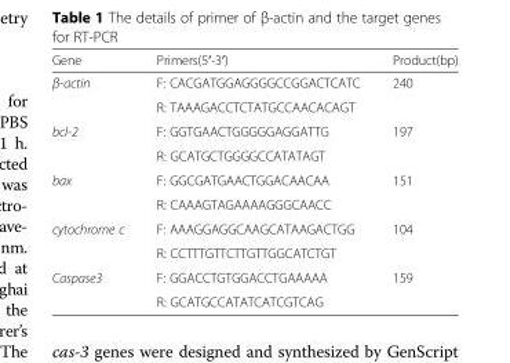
<table><thead><tr><td>Gene</td><td>Primers(5′-3′)</td><td>Product(bp)</td></tr></thead><tbody><tr><td rowspan="2">β-actin</td><td>F: CACGATGGAGGGGCCGGACTCATC</td><td rowspan="2">240</td></tr><tr><td>R: TAAAGACCTCTATGCCAACACAGT</td></tr><tr><td rowspan="2">bcl-2</td><td>F: GGTGAACTGGGGGAGGATTG</td><td rowspan="2">197</td></tr><tr><td>R: GCATGCTGGGGCCATATAGT</td></tr><tr><td rowspan="2">bax</td><td>F: GGCGATGAACTGGACAACAA</td><td rowspan="2">151</td></tr><tr><td>R: CAAAGTAGAAAAGGGCAACC</td></tr><tr><td rowspan="2">cytochrome c</td><td>F: AAAGGAGGCAAGCATAAGACTGG</td><td rowspan="2">104</td></tr><tr><td>R: CCTTTGTTCTTGTTGGCATCTGT</td></tr><tr><td rowspan="2">Caspase3</td><td>F: GGACCTGTGGACCTGAAAAA</td><td rowspan="2">159</td></tr><tr><td>R: GCATGCCATATCATCGTCAG</td></tr></tbody></table>